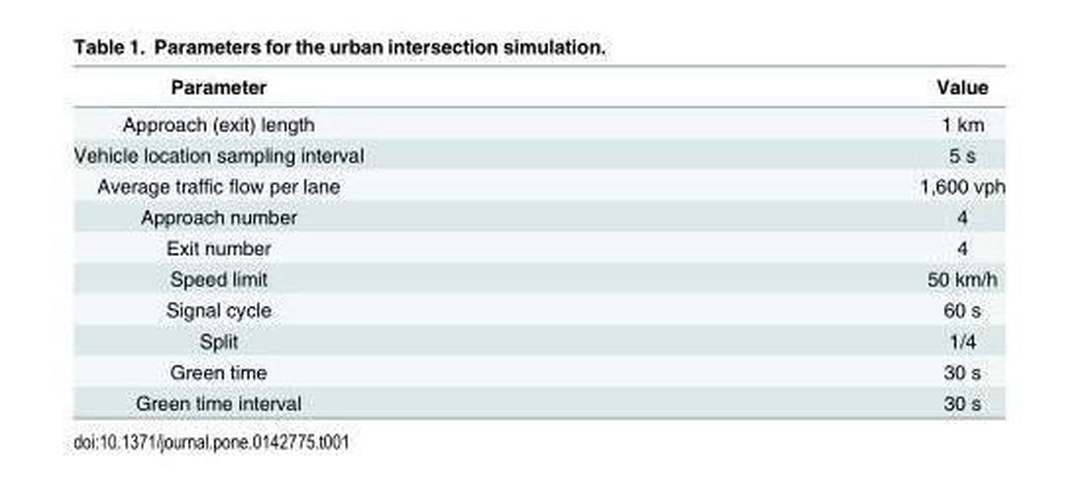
<table><thead><tr><td>Parameter</td><td>Value</td></tr></thead><tbody><tr><td>Approach (exit) length</td><td>1 km</td></tr><tr><td>Vehicle location sampling interval</td><td>5 s</td></tr><tr><td>Average traffic flow per lane</td><td>1,600 vph</td></tr><tr><td>Approach number</td><td>4</td></tr><tr><td>Exit number</td><td>4</td></tr><tr><td>Speed limit</td><td>50 km/h</td></tr><tr><td>Signal cycle</td><td>60 s</td></tr><tr><td>Split</td><td>1/4</td></tr><tr><td>Green time</td><td>30 s</td></tr><tr><td>Green time interval</td><td>30 s</td></tr></tbody></table>